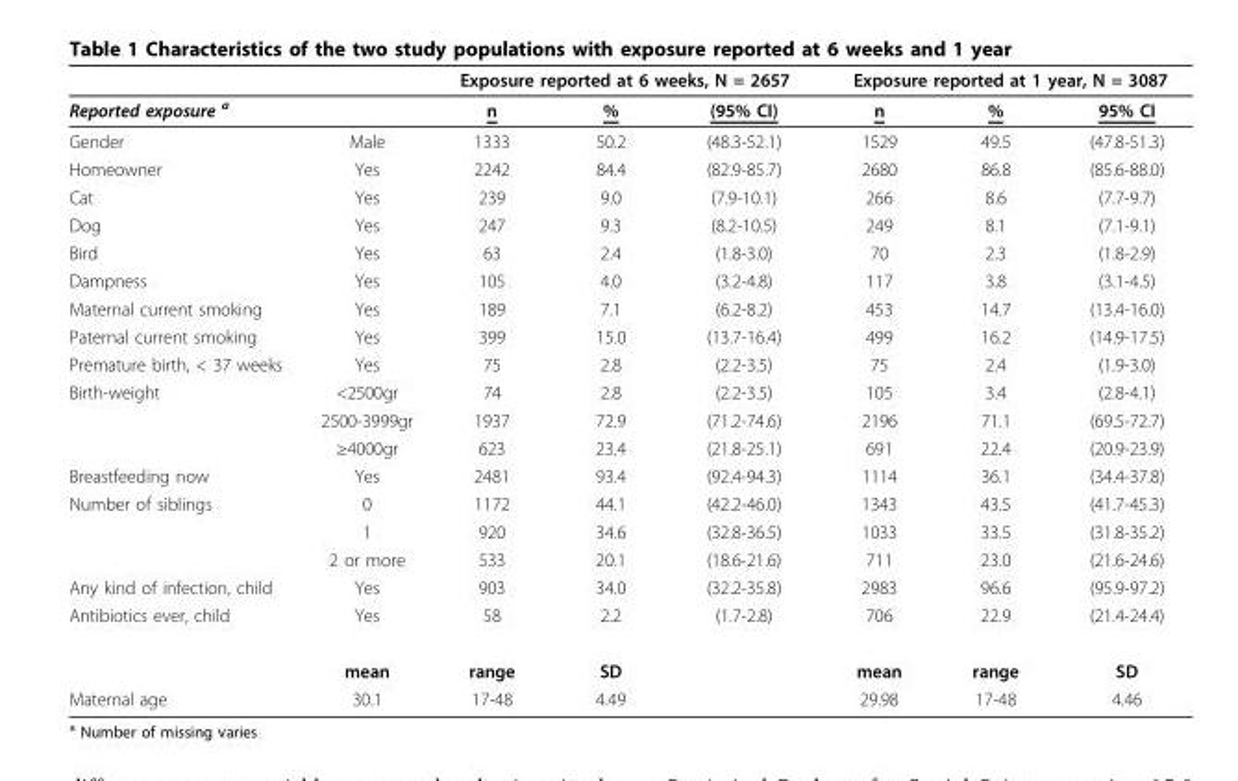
<table><thead><tr><td rowspan="2">Reported exposure <sup>a</sup></td><td rowspan="2"></td><td colspan="3">Exposure reported at 6 weeks, N = 2657</td><td colspan="3">Exposure reported at 1 year, N = 3087</td></tr><tr><td>n</td><td>%</td><td>(95% CI)</td><td>n</td><td>%</td><td>95% CI</td></tr></thead><tbody><tr><td>Gender</td><td>Male</td><td>1333</td><td>50.2</td><td>(48.3-52.1)</td><td>1529</td><td>49.5</td><td>(47.8-51.3)</td></tr><tr><td>Homeowner</td><td>Yes</td><td>2242</td><td>84.4</td><td>(82.9-85.7)</td><td>2680</td><td>86.8</td><td>(85.6-88.0)</td></tr><tr><td>Cat</td><td>Yes</td><td>239</td><td>9.0</td><td>(7.9-10.1)</td><td>266</td><td>8.6</td><td>(7.7-9.7)</td></tr><tr><td>Dog</td><td>Yes</td><td>247</td><td>9.3</td><td>(8.2-10.5)</td><td>249</td><td>8.1</td><td>(7.1-9.1)</td></tr><tr><td>Bird</td><td>Yes</td><td>63</td><td>2.4</td><td>(1.8-3.0)</td><td>70</td><td>2.3</td><td>(1.8-2.9)</td></tr><tr><td>Dampness</td><td>Yes</td><td>105</td><td>4.0</td><td>(3.2-4.8)</td><td>117</td><td>3.8</td><td>(3.1-4.5)</td></tr><tr><td>Maternal current smoking</td><td>Yes</td><td>189</td><td>7.1</td><td>(6.2-8.2)</td><td>453</td><td>14.7</td><td>(13.4-16.0)</td></tr><tr><td>Paternal current smoking</td><td>Yes</td><td>399</td><td>15.0</td><td>(13.7-16.4)</td><td>499</td><td>16.2</td><td>(14.9-17.5)</td></tr><tr><td>Premature birth, &lt; 37 weeks</td><td>Yes</td><td>75</td><td>2.8</td><td>(2.2-3.5)</td><td>75</td><td>2.4</td><td>(1.9-3.0)</td></tr><tr><td rowspan="3">Birth-weight</td><td>&lt;2500gr</td><td>74</td><td>2.8</td><td>(2.2-3.5)</td><td>105</td><td>3.4</td><td>(2.8-4.1)</td></tr><tr><td>2500-3999gr</td><td>1937</td><td>72.9</td><td>(71.2-74.6)</td><td>2196</td><td>71.1</td><td>(69.5-72.7)</td></tr><tr><td>≥4000gr</td><td>623</td><td>23.4</td><td>(21.8-25.1)</td><td>691</td><td>22.4</td><td>(20.9-23.9)</td></tr><tr><td>Breastfeeding now</td><td>Yes</td><td>2481</td><td>93.4</td><td>(92.4-94.3)</td><td>1114</td><td>36.1</td><td>(34.4-37.8)</td></tr><tr><td rowspan="3">Number of siblings</td><td>0</td><td>1172</td><td>44.1</td><td>(42.2-46.0)</td><td>1343</td><td>43.5</td><td>(41.7-45.3)</td></tr><tr><td>1</td><td>920</td><td>34.6</td><td>(32.8-36.5)</td><td>1033</td><td>33.5</td><td>(31.8-35.2)</td></tr><tr><td>2 or more</td><td>533</td><td>20.1</td><td>(18.6-21.6)</td><td>711</td><td>23.0</td><td>(21.6-24.6)</td></tr><tr><td>Any kind of infection, child</td><td>Yes</td><td>903</td><td>34.0</td><td>(32.2-35.8)</td><td>2983</td><td>96.6</td><td>(95.9-97.2)</td></tr><tr><td rowspan="2">Antibiotics ever, child</td><td>Yes</td><td>58</td><td>2.2</td><td>(1.7-2.8)</td><td>706</td><td>22.9</td><td>(21.4-24.4)</td></tr><tr><td>mean</td><td>range</td><td>SD</td><td></td><td>mean</td><td>range</td><td>SD</td></tr><tr><td>Maternal age</td><td>30.1</td><td>17-48</td><td>4.49</td><td></td><td>29.98</td><td>17-48</td><td>4.46</td></tr></tbody></table>